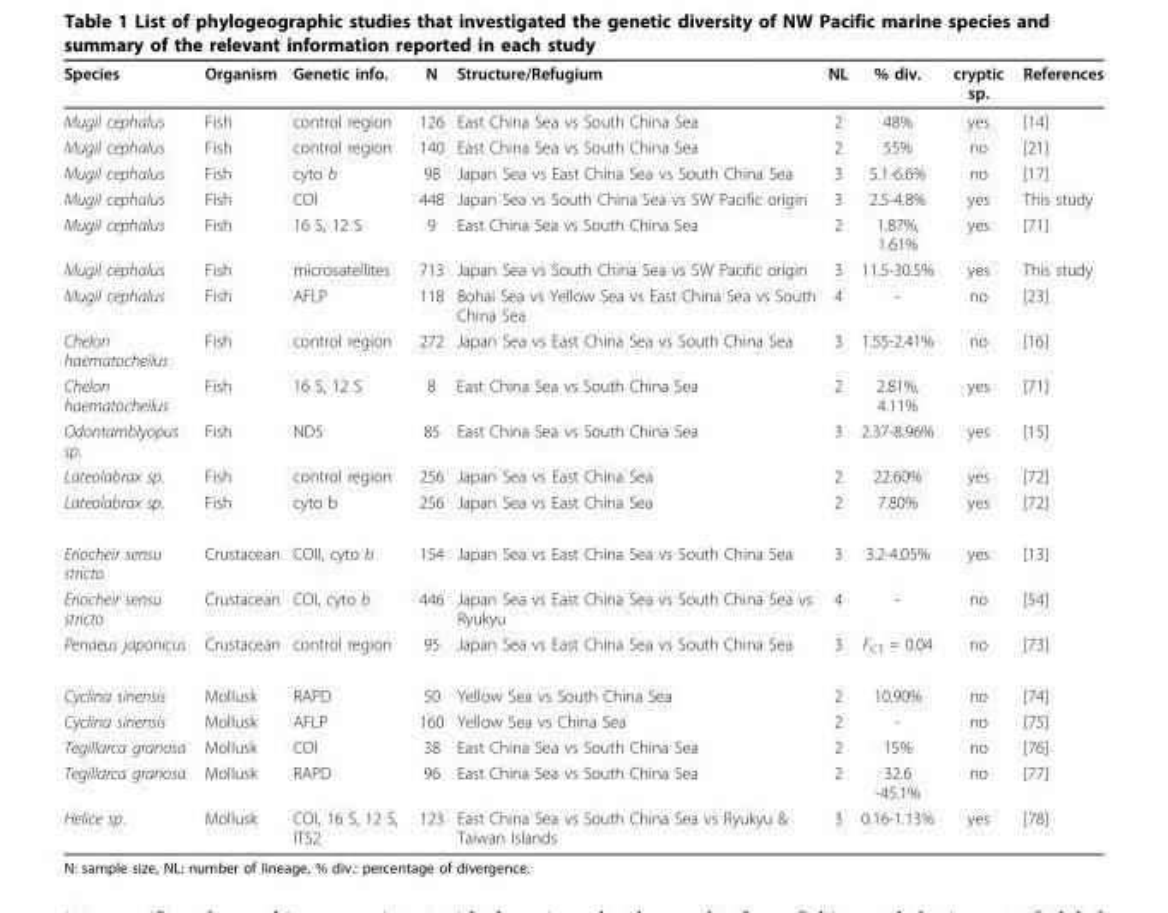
<table><thead><tr><td>Species</td><td>Organism</td><td>Genetic info.</td><td>N</td><td>Structure/Refugium</td><td>NL</td><td>% div.</td><td>cryptic sp.</td><td>References</td></tr></thead><tbody><tr><td>Mugil cephalus</td><td>Fish</td><td>control region</td><td>126</td><td>East China Sea vs South China Sea</td><td>2</td><td>48%</td><td>yes</td><td>[14]</td></tr><tr><td>Mugil cephalus</td><td>Fish</td><td>control region</td><td>140</td><td>East China Sea vs South China Sea</td><td>2</td><td>55%</td><td>no</td><td>[21]</td></tr><tr><td>Mugil cephalus</td><td>Fish</td><td>cyto b</td><td>98</td><td>Japan Sea vs East China Sea vs South China Sea</td><td>3</td><td>5.1-6.6%</td><td>no</td><td>[17]</td></tr><tr><td>Mugil cephalus</td><td>Fish</td><td>COI</td><td>448</td><td>Japan Sea vs South China Sea vs SW Pacific origin</td><td>3</td><td>2.5-4.8%</td><td>yes</td><td>This study</td></tr><tr><td>Mugil cephalus</td><td>Fish</td><td>16 S, 12 S</td><td>9</td><td>East China Sea vs South China Sea</td><td>2</td><td>1.87%, 1.61%</td><td>yes</td><td>[71]</td></tr><tr><td>Mugil cephalus</td><td>Fish</td><td>microsatellites</td><td>713</td><td>Japan Sea vs South China Sea vs SW Pacific origin</td><td>3</td><td>11.5-30.5%</td><td>yes</td><td>This study</td></tr><tr><td>Mugil cephalus</td><td>Fish</td><td>AFLP</td><td>118</td><td>Bohai Sea vs Yellow Sea vs East China Sea vs South China Sea</td><td>4</td><td>-</td><td>no</td><td>[23]</td></tr><tr><td>Chelon haematocheilus</td><td>Fish</td><td>control region</td><td>272</td><td>Japan Sea vs East China Sea vs South China Sea</td><td>3</td><td>1.55-2.41%</td><td>no</td><td>[16]</td></tr><tr><td>Chelon haematocheilus</td><td>Fish</td><td>16 S, 12 S</td><td>8</td><td>East China Sea vs South China Sea</td><td>2</td><td>2.81%, 4.11%</td><td>yes</td><td>[71]</td></tr><tr><td>Odontamblyopus sp.</td><td>Fish</td><td>ND5</td><td>85</td><td>East China Sea vs South China Sea</td><td>3</td><td>2.37-8.96%</td><td>yes</td><td>[15]</td></tr><tr><td>Lateolabrax sp.</td><td>Fish</td><td>control region</td><td>256</td><td>Japan Sea vs East China Sea</td><td>2</td><td>22.60%</td><td>yes</td><td>[72]</td></tr><tr><td>Lateolabrax sp.</td><td>Fish</td><td>cyto b</td><td>256</td><td>Japan Sea vs East China Sea</td><td>2</td><td>7.80%</td><td>yes</td><td>[72]</td></tr><tr><td>Eriocheir sensu stricto</td><td>Crustacean</td><td>COII, cyto b</td><td>154</td><td>Japan Sea vs East China Sea vs South China Sea</td><td>3</td><td>3.2-4.05%</td><td>yes</td><td>[13]</td></tr><tr><td>Eriocheir sensu stricto</td><td>Crustacean</td><td>COI, cyto b</td><td>446</td><td>Japan Sea vs East China Sea vs South China Sea vs Ryukyu</td><td>4</td><td>-</td><td>no</td><td>[54]</td></tr><tr><td>Penaeus japonicus</td><td>Crustacean</td><td>control region</td><td>95</td><td>Japan Sea vs East China Sea vs South China Sea</td><td>3</td><td>F<sub>CT</sub> = 0.04</td><td>no</td><td>[73]</td></tr><tr><td>Cyclina sinensis</td><td>Mollusk</td><td>RAPD</td><td>50</td><td>Yellow Sea vs South China Sea</td><td>2</td><td>10.90%</td><td>no</td><td>[74]</td></tr><tr><td>Cyclina sinensis</td><td>Mollusk</td><td>AFLP</td><td>160</td><td>Yellow Sea vs China Sea</td><td>2</td><td>-</td><td>no</td><td>[75]</td></tr><tr><td>Tegillarca granosa</td><td>Mollusk</td><td>COI</td><td>38</td><td>East China Sea vs South China Sea</td><td>2</td><td>15%</td><td>no</td><td>[76]</td></tr><tr><td>Tegillarca granosa</td><td>Mollusk</td><td>RAPD</td><td>96</td><td>East China Sea vs South China Sea</td><td>2</td><td>32.6 -45.1%</td><td>no</td><td>[77]</td></tr><tr><td>Helice sp.</td><td>Mollusk</td><td>COI, 16 S, 12 S, ITS2</td><td>123</td><td>East China Sea vs South China Sea vs Ryukyu &amp; Taiwan Islands</td><td>3</td><td>0.16-1.13%</td><td>yes</td><td>[78]</td></tr></tbody></table>